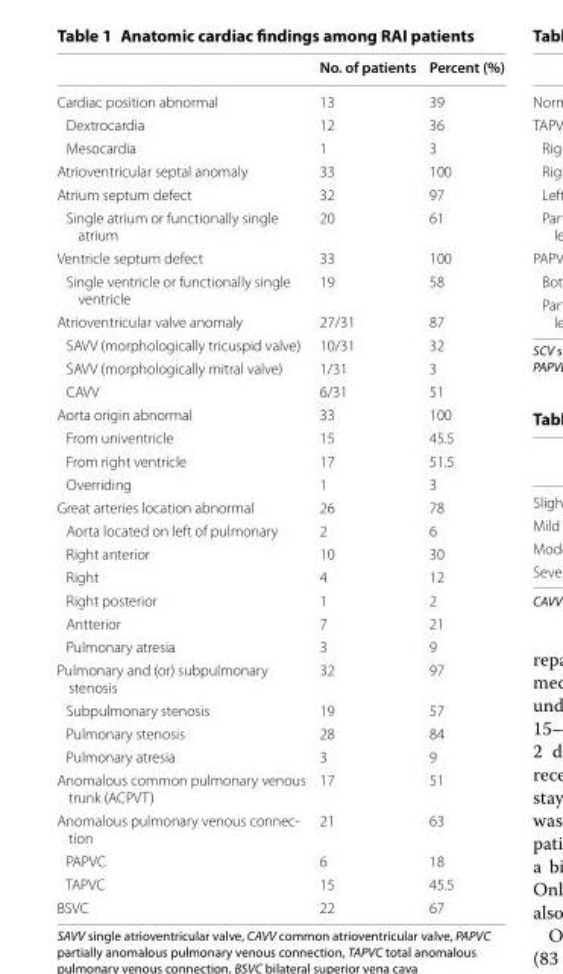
<table><thead><tr><td></td><td>No. of patients</td><td>Percent (%)</td></tr></thead><tbody><tr><td>Cardiac position abnormal</td><td>13</td><td>39</td></tr><tr><td>Dextrocardia</td><td>12</td><td>36</td></tr><tr><td>Mesocardia</td><td>1</td><td>3</td></tr><tr><td>Atrioventricular septal anomaly</td><td>33</td><td>100</td></tr><tr><td>Atrium septum defect</td><td>32</td><td>97</td></tr><tr><td>Single atrium or functionally single atrium</td><td>20</td><td>61</td></tr><tr><td>Ventricle septum defect</td><td>33</td><td>100</td></tr><tr><td>Single ventricle or functionally single ventricle</td><td>19</td><td>58</td></tr><tr><td>Atrioventricular valve anomaly</td><td>27/31</td><td>87</td></tr><tr><td>SAVV (morphologically tricuspid valve)</td><td>10/31</td><td>32</td></tr><tr><td>SAVV (morphologically mitral valve)</td><td>1/31</td><td>3</td></tr><tr><td>CAVV</td><td>6/31</td><td>51</td></tr><tr><td>Aorta origin abnormal</td><td>33</td><td>100</td></tr><tr><td>From univentricle</td><td>15</td><td>45.5</td></tr><tr><td>From right ventricle</td><td>17</td><td>51.5</td></tr><tr><td>Overriding</td><td>1</td><td>3</td></tr><tr><td>Great arteries location abnormal</td><td>26</td><td>78</td></tr><tr><td>Aorta located on left of pulmonary</td><td>2</td><td>6</td></tr><tr><td>Right anterior</td><td>10</td><td>30</td></tr><tr><td>Right</td><td>4</td><td>12</td></tr><tr><td>Right posterior</td><td>1</td><td>2</td></tr><tr><td>Antterior</td><td>7</td><td>21</td></tr><tr><td>Pulmonary atresia</td><td>3</td><td>9</td></tr><tr><td>Pulmonary and (or) subpulmonary stenosis</td><td>32</td><td>97</td></tr><tr><td>Subpulmonary stenosis</td><td>19</td><td>57</td></tr><tr><td>Pulmonary stenosis</td><td>28</td><td>84</td></tr><tr><td>Pulmonary atresia</td><td>3</td><td>9</td></tr><tr><td>Anomalous common pulmonary venous trunk (ACPVT)</td><td>17</td><td>51</td></tr><tr><td>Anomalous pulmonary venous connec- tion</td><td>21</td><td>63</td></tr><tr><td>PAPVC</td><td>6</td><td>18</td></tr><tr><td>TAPVC</td><td>15</td><td>45.5</td></tr><tr><td>BSVC</td><td>22</td><td>67</td></tr></tbody></table>